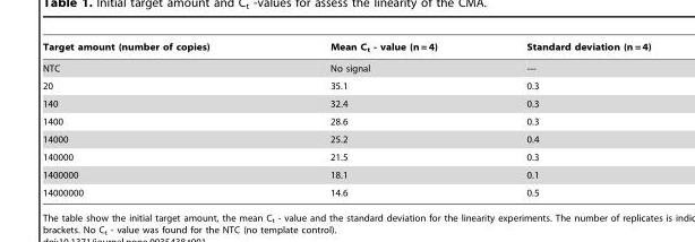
<table><thead><tr><td>Target amount (number of copies)</td><td>Mean C<sub>t</sub> - value (n = 4)</td><td>Standard deviation (n = 4)</td></tr></thead><tbody><tr><td>NTC</td><td>No signal</td><td>---</td></tr><tr><td>20</td><td>35.1</td><td>0.3</td></tr><tr><td>140</td><td>32.4</td><td>0.3</td></tr><tr><td>1400</td><td>28.6</td><td>0.3</td></tr><tr><td>14000</td><td>25.2</td><td>0.4</td></tr><tr><td>140000</td><td>21.5</td><td>0.3</td></tr><tr><td>1400000</td><td>18.1</td><td>0.1</td></tr><tr><td>14000000</td><td>14.6</td><td>0.5</td></tr></tbody></table>